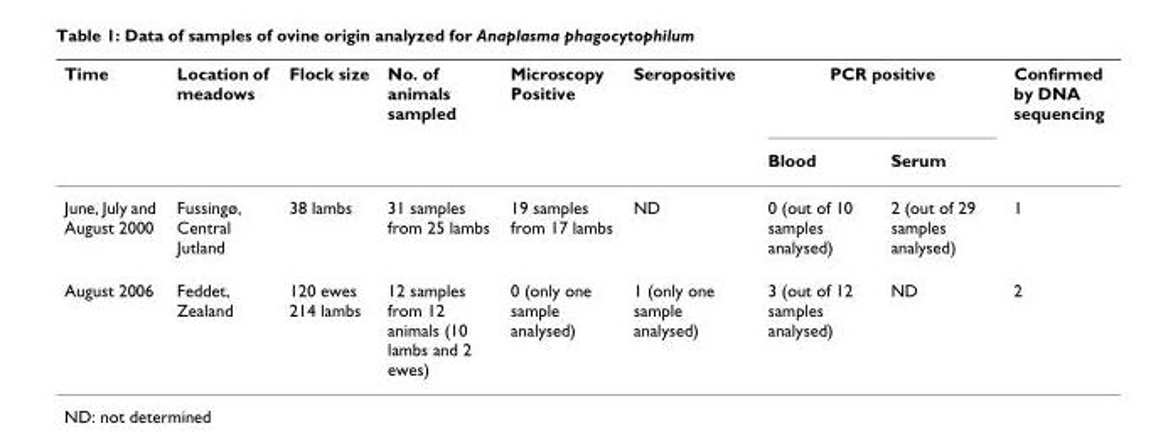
<table><thead><tr><td rowspan="2">Time</td><td rowspan="2">Location of meadows</td><td rowspan="2">Flock size</td><td rowspan="2">No. of animals sampled</td><td rowspan="2">Microscopy Positive</td><td rowspan="2">Seropositive</td><td colspan="2">PCR positive</td><td rowspan="2">Confirmed by DNA sequencing</td></tr><tr><td>Blood</td><td>Serum</td></tr></thead><tbody><tr><td>June, July and August 2000</td><td>Fussingø, Central Jutland</td><td>38 lambs</td><td>31 samples from 25 lambs</td><td>19 samples from 17 lambs</td><td>ND</td><td>0 (out of 10 samples analysed)</td><td>2 (out of 29 samples analysed)</td><td>1</td></tr><tr><td>August 2006</td><td>Feddet, Zealand</td><td>120 ewes 214 lambs</td><td>12 samples from 12 animals (10 lambs and 2 ewes)</td><td>0 (only one sample analysed)</td><td>1 (only one sample analysed)</td><td>3 (out of 12 samples analysed)</td><td>ND</td><td>2</td></tr></tbody></table>